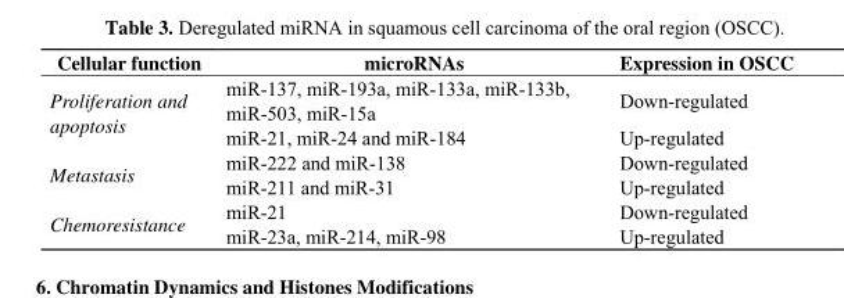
<table><thead><tr><td>Cellular function</td><td>microRNAs</td><td>Expression in OSCC</td></tr></thead><tbody><tr><td rowspan="2">Proliferation and apoptosis</td><td>miR-137, miR-193a, miR-133a, miR-133b, miR-503, miR-15a</td><td>Down-regulated</td></tr><tr><td>miR-21, miR-24 and miR-184</td><td>Up-regulated</td></tr><tr><td rowspan="2">Metastasis</td><td>miR-222 and miR-138</td><td>Down-regulated</td></tr><tr><td>miR-211 and miR-31</td><td>Up-regulated</td></tr><tr><td rowspan="2">Chemoresistance</td><td>miR-21</td><td>Down-regulated</td></tr><tr><td>miR-23a, miR-214, miR-98</td><td>Up-regulated</td></tr></tbody></table>